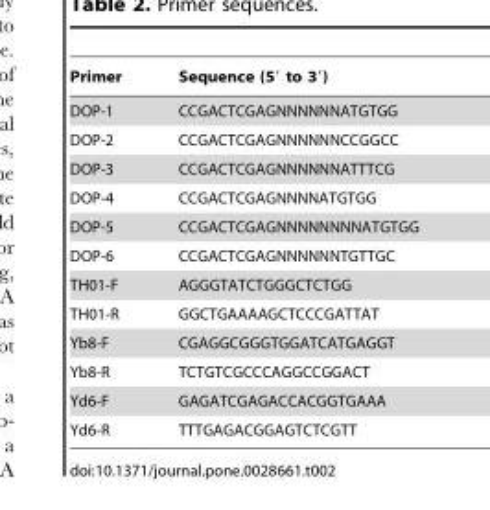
<table><thead><tr><td>Primer</td><td>Sequence (5′ to 3′)</td></tr></thead><tbody><tr><td>DOP-1</td><td>CCGACTCGAGNNNNNNATGTGG</td></tr><tr><td>DOP-2</td><td>CCGACTCGAGNNNNNNCCGGCC</td></tr><tr><td>DOP-3</td><td>CCGACTCGAGNNNNNNATTTCG</td></tr><tr><td>DOP-4</td><td>CCGACTCGAGNNNNATGTGG</td></tr><tr><td>DOP-5</td><td>CCGACTCGAGNNNNNNNNATGTGG</td></tr><tr><td>DOP-6</td><td>CCGACTCGAGNNNNNNTGTTGC</td></tr><tr><td>TH01-F</td><td>AGGGTATCTGGGCTCTGG</td></tr><tr><td>TH01-R</td><td>GGCTGAAAAGCTCCCGATTAT</td></tr><tr><td>Yb8-F</td><td>CGAGGCGGGTGGATCATGAGGT</td></tr><tr><td>Yb8-R</td><td>TCTGTCGCCCAGGCCGGACT</td></tr><tr><td>Yd6-F</td><td>GAGATCGAGACCACGGTGAAA</td></tr><tr><td>Yd6-R</td><td>TTTGAGACGGAGTCTCGTT</td></tr></tbody></table>